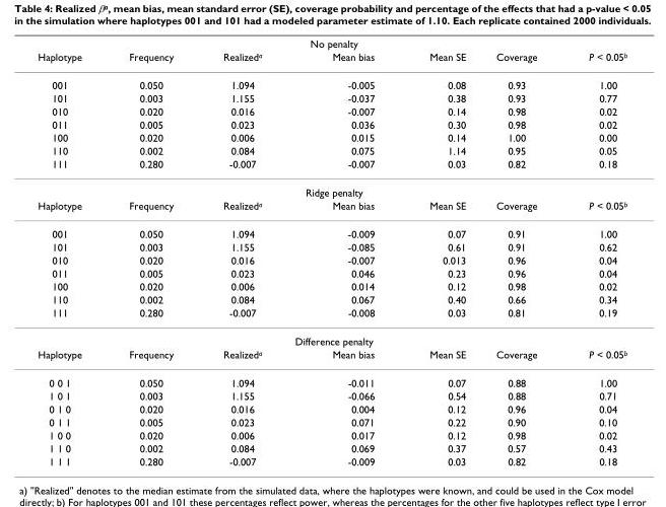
<table><thead><tr><td colspan="7">No penalty</td></tr><tr><td>Haplotype</td><td>Frequency</td><td>Realized<sup>a</sup></td><td>Mean bias</td><td>Mean SE</td><td>Coverage</td><td>P &lt; 0.05<sup>b</sup></td></tr></thead><tbody><tr><td>001</td><td>0.050</td><td>1.094</td><td>-0.005</td><td>0.08</td><td>0.93</td><td>1.00</td></tr><tr><td>101</td><td>0.003</td><td>1.155</td><td>-0.037</td><td>0.38</td><td>0.93</td><td>0.77</td></tr><tr><td>010</td><td>0.020</td><td>0.016</td><td>-0.007</td><td>0.14</td><td>0.98</td><td>0.02</td></tr><tr><td>011</td><td>0.005</td><td>0.023</td><td>0.036</td><td>0.30</td><td>0.98</td><td>0.02</td></tr><tr><td>100</td><td>0.020</td><td>0.006</td><td>0.015</td><td>0.14</td><td>1.00</td><td>0.00</td></tr><tr><td>110</td><td>0.002</td><td>0.084</td><td>0.075</td><td>1.14</td><td>0.95</td><td>0.05</td></tr><tr><td>111</td><td>0.280</td><td>-0.007</td><td>-0.007</td><td>0.03</td><td>0.82</td><td>0.18</td></tr><tr><td colspan="7">Ridge penalty</td></tr><tr><td>Haplotype</td><td>Frequency</td><td>Realized<sup>a</sup></td><td>Mean bias</td><td>Mean SE</td><td>Coverage</td><td>P &lt; 0.05<sup>b</sup></td></tr><tr><td>001</td><td>0.050</td><td>1.094</td><td>-0.009</td><td>0.07</td><td>0.91</td><td>1.00</td></tr><tr><td>101</td><td>0.003</td><td>1.155</td><td>-0.085</td><td>0.61</td><td>0.91</td><td>0.62</td></tr><tr><td>010</td><td>0.020</td><td>0.016</td><td>-0.007</td><td>0.013</td><td>0.96</td><td>0.04</td></tr><tr><td>011</td><td>0.005</td><td>0.023</td><td>0.046</td><td>0.23</td><td>0.96</td><td>0.04</td></tr><tr><td>100</td><td>0.020</td><td>0.006</td><td>0.014</td><td>0.12</td><td>0.98</td><td>0.02</td></tr><tr><td>110</td><td>0.002</td><td>0.084</td><td>0.067</td><td>0.40</td><td>0.66</td><td>0.34</td></tr><tr><td>111</td><td>0.280</td><td>-0.007</td><td>-0.008</td><td>0.03</td><td>0.81</td><td>0.19</td></tr><tr><td colspan="7">Difference penalty</td></tr><tr><td>Haplotype</td><td>Frequency</td><td>Realized<sup>a</sup></td><td>Mean bias</td><td>Mean SE</td><td>Coverage</td><td>P &lt; 0.05<sup>b</sup></td></tr><tr><td>0 0 1</td><td>0.050</td><td>1.094</td><td>-0.011</td><td>0.07</td><td>0.88</td><td>1.00</td></tr><tr><td>1 0 1</td><td>0.003</td><td>1.155</td><td>-0.066</td><td>0.54</td><td>0.88</td><td>0.71</td></tr><tr><td>0 1 0</td><td>0.020</td><td>0.016</td><td>0.004</td><td>0.12</td><td>0.96</td><td>0.04</td></tr><tr><td>0 1 1</td><td>0.005</td><td>0.023</td><td>0.071</td><td>0.22</td><td>0.90</td><td>0.10</td></tr><tr><td>1 0 0</td><td>0.020</td><td>0.006</td><td>0.017</td><td>0.12</td><td>0.98</td><td>0.02</td></tr><tr><td>1 1 0</td><td>0.002</td><td>0.084</td><td>0.069</td><td>0.37</td><td>0.57</td><td>0.43</td></tr><tr><td>1 1 1</td><td>0.280</td><td>-0.007</td><td>-0.009</td><td>0.03</td><td>0.82</td><td>0.18</td></tr></tbody></table>